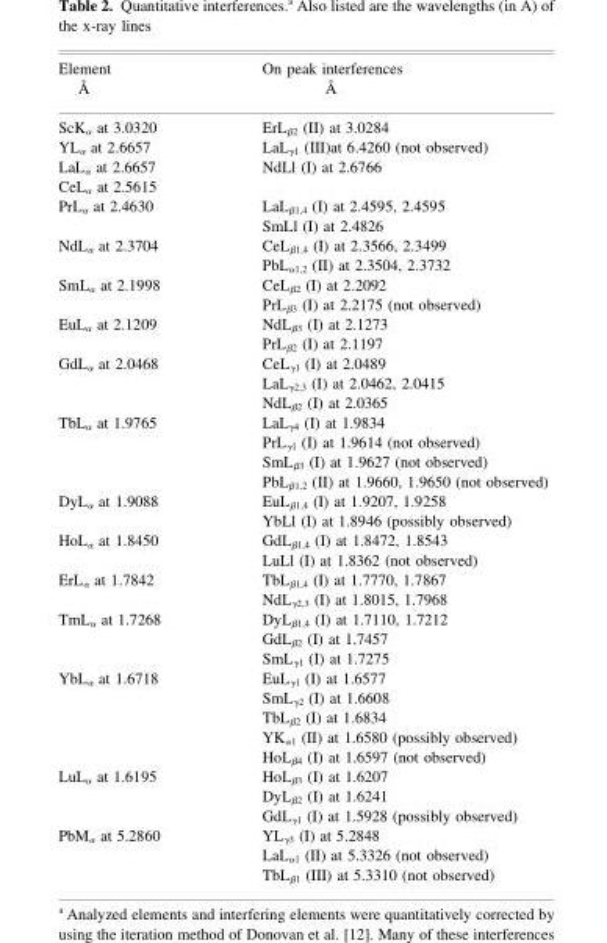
<table><thead><tr><td>Element Å</td><td>On peak interferences Å</td></tr></thead><tbody><tr><td>ScK<sub>α</sub> at 3.0320</td><td>ErL<sub>β2</sub> (II) at 3.0284</td></tr><tr><td>YL<sub>α</sub> at 2.6657</td><td>LaL<sub>γ1</sub> (III)at 6.4260 (not observed)</td></tr><tr><td>LaL<sub>α</sub> at 2.6657</td><td>NdLl (I) at 2.6766</td></tr><tr><td colspan="2">CeL<sub>α</sub> at 2.5615</td></tr><tr><td rowspan="2">PrL<sub>α</sub> at 2.4630</td><td>LaL<sub>β1,4</sub> (I) at 2.4595, 2.4595</td></tr><tr><td>SmLl (I) at 2.4826</td></tr><tr><td rowspan="2">NdL<sub>α</sub> at 2.3704</td><td>CeL<sub>β1,4</sub> (I) at 2.3566, 2.3499</td></tr><tr><td>PbL<sub>α1,2</sub> (II) at 2.3504, 2.3732</td></tr><tr><td rowspan="2">SmL<sub>α</sub> at 2.1998</td><td>CeL<sub>β2</sub> (I) at 2.2092</td></tr><tr><td>PrL<sub>β3</sub> (I) at 2.2175 (not observed)</td></tr><tr><td rowspan="2">EuL<sub>α</sub> at 2.1209</td><td>NdL<sub>β3</sub> (I) at 2.1273</td></tr><tr><td>PrL<sub>β2</sub> (I) at 2.1197</td></tr><tr><td rowspan="3">GdL<sub>α</sub> at 2.0468</td><td>CeL<sub>γ1</sub> (I) at 2.0489</td></tr><tr><td>LaL<sub>γ2,3</sub> (I) at 2.0462, 2.0415</td></tr><tr><td>NdL<sub>β2</sub> (I) at 2.0365</td></tr><tr><td rowspan="4">TbL<sub>α</sub> at 1.9765</td><td>LaL<sub>γ4</sub> (I) at 1.9834</td></tr><tr><td>PrL<sub>γ1</sub> (I) at 1.9614 (not observed)</td></tr><tr><td>SmL<sub>β3</sub> (I) at 1.9627 (not observed)</td></tr><tr><td>PbL<sub>β1,2</sub> (II) at 1.9660, 1.9650 (not observed)</td></tr><tr><td rowspan="2">DyL<sub>α</sub> at 1.9088</td><td>EuL<sub>β1,4</sub> (I) at 1.9207, 1.9258</td></tr><tr><td>YbLl (I) at 1.8946 (possibly observed)</td></tr><tr><td rowspan="2">HoL<sub>α</sub> at 1.8450</td><td>GdL<sub>β1,4</sub> (I) at 1.8472, 1.8543</td></tr><tr><td>LuLl (I) at 1.8362 (not observed)</td></tr><tr><td rowspan="2">ErL<sub>α</sub> at 1.7842</td><td>TbL<sub>β1,4</sub> (I) at 1.7770, 1.7867</td></tr><tr><td>NdL<sub>γ2,3</sub> (I) at 1.8015, 1.7968</td></tr><tr><td rowspan="3">TmL<sub>α</sub> at 1.7268</td><td>DyL<sub>β1,4</sub> (I) at 1.7110, 1.7212</td></tr><tr><td>GdL<sub>β2</sub> (I) at 1.7457</td></tr><tr><td>SmL<sub>γ1</sub> (I) at 1.7275</td></tr><tr><td rowspan="5">YbL<sub>α</sub> at 1.6718</td><td>EuL<sub>γ1</sub> (I) at 1.6577</td></tr><tr><td>SmL<sub>γ2</sub> (I) at 1.6608</td></tr><tr><td>TbL<sub>β2</sub> (I) at 1.6834</td></tr><tr><td>YK<sub>α1</sub> (II) at 1.6580 (possibly observed)</td></tr><tr><td>HoL<sub>β4</sub> (I) at 1.6597 (not observed)</td></tr><tr><td rowspan="3">LuL<sub>α</sub> at 1.6195</td><td>HoL<sub>β3</sub> (I) at 1.6207</td></tr><tr><td>DyL<sub>β2</sub> (I) at 1.6241</td></tr><tr><td>GdL<sub>γ1</sub> (I) at 1.5928 (possibly observed)</td></tr><tr><td rowspan="3">PbM<sub>α</sub> at 5.2860</td><td>YL<sub>γ3</sub> (I) at 5.2848</td></tr><tr><td>LaL<sub>α1</sub> (II) at 5.3326 (not observed)</td></tr><tr><td>TbL<sub>β1</sub> (III) at 5.3310 (not observed)</td></tr></tbody></table>